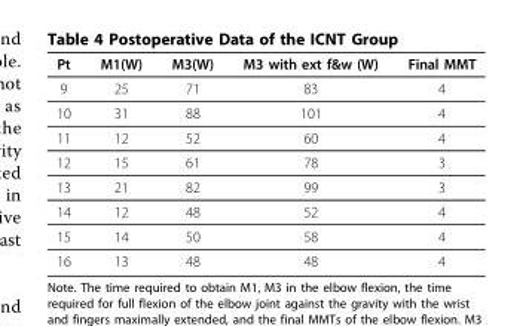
<table><thead><tr><td>Pt</td><td>M1(W)</td><td>M3(W)</td><td>M3 with ext f&amp;w (W)</td><td>Final MMT</td></tr></thead><tbody><tr><td>9</td><td>25</td><td>71</td><td>83</td><td>4</td></tr><tr><td>10</td><td>31</td><td>88</td><td>101</td><td>4</td></tr><tr><td>11</td><td>12</td><td>52</td><td>60</td><td>4</td></tr><tr><td>12</td><td>15</td><td>61</td><td>78</td><td>3</td></tr><tr><td>13</td><td>21</td><td>82</td><td>99</td><td>3</td></tr><tr><td>14</td><td>12</td><td>48</td><td>52</td><td>4</td></tr><tr><td>15</td><td>14</td><td>50</td><td>58</td><td>4</td></tr><tr><td>16</td><td>13</td><td>48</td><td>48</td><td>4</td></tr></tbody></table>